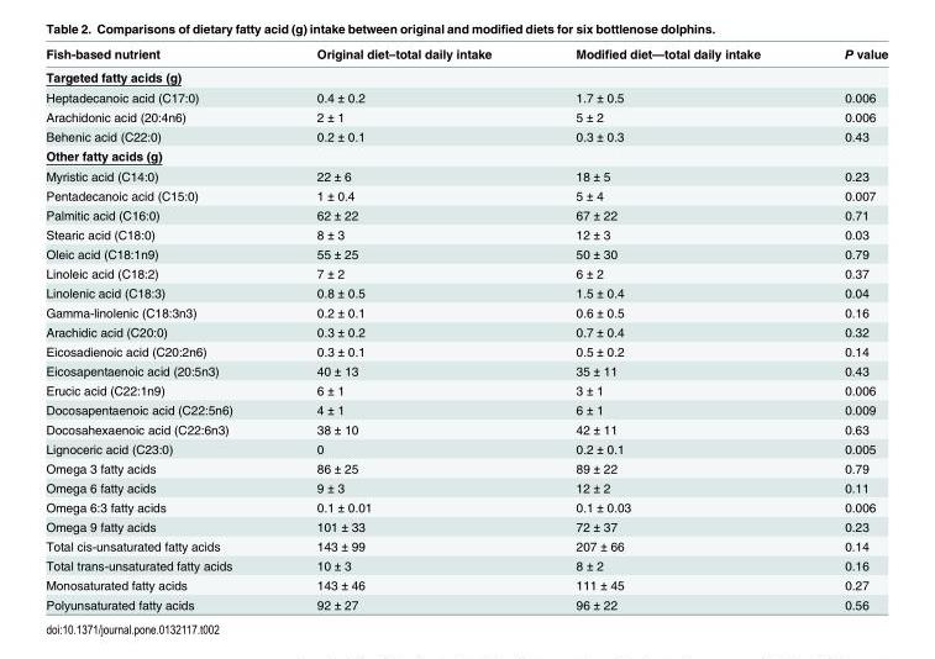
<table><thead><tr><td>Fish-based nutrient</td><td>Original diet–total daily intake</td><td>Modified diet—total daily intake</td><td>P value</td></tr></thead><tbody><tr><td colspan="4">Targeted fatty acids (g)</td></tr><tr><td>Heptadecanoic acid (C17:0)</td><td>0.4 ± 0.2</td><td>1.7 ± 0.5</td><td>0.006</td></tr><tr><td>Arachidonic acid (20:4n6)</td><td>2 ± 1</td><td>5 ± 2</td><td>0.006</td></tr><tr><td>Behenic acid (C22:0)</td><td>0.2 ± 0.1</td><td>0.3 ± 0.3</td><td>0.43</td></tr><tr><td colspan="4">Other fatty acids (g)</td></tr><tr><td>Myristic acid (C14:0)</td><td>22 ± 6</td><td>18 ± 5</td><td>0.23</td></tr><tr><td>Pentadecanoic acid (C15:0)</td><td>1 ± 0.4</td><td>5 ± 4</td><td>0.007</td></tr><tr><td>Palmitic acid (C16:0)</td><td>62 ± 22</td><td>67 ± 22</td><td>0.71</td></tr><tr><td>Stearic acid (C18:0)</td><td>8 ± 3</td><td>12 ± 3</td><td>0.03</td></tr><tr><td>Oleic acid (C18:1n9)</td><td>55 ± 25</td><td>50 ± 30</td><td>0.79</td></tr><tr><td>Linoleic acid (C18:2)</td><td>7 ± 2</td><td>6 ± 2</td><td>0.37</td></tr><tr><td>Linolenic acid (C18:3)</td><td>0.8 ± 0.5</td><td>1.5 ± 0.4</td><td>0.04</td></tr><tr><td>Gamma-linolenic (C18:3n3)</td><td>0.2 ± 0.1</td><td>0.6 ± 0.5</td><td>0.16</td></tr><tr><td>Arachidic acid (C20:0)</td><td>0.3 ± 0.2</td><td>0.7 ± 0.4</td><td>0.32</td></tr><tr><td>Eicosadienoic acid (C20:2n6)</td><td>0.3 ± 0.1</td><td>0.5 ± 0.2</td><td>0.14</td></tr><tr><td>Eicosapentaenoic acid (20:5n3)</td><td>40 ± 13</td><td>35 ± 11</td><td>0.43</td></tr><tr><td>Erucic acid (C22:1n9)</td><td>6 ± 1</td><td>3 ± 1</td><td>0.006</td></tr><tr><td>Docosapentaenoic acid (C22:5n6)</td><td>4 ± 1</td><td>6 ± 1</td><td>0.009</td></tr><tr><td>Docosahexaenoic acid (C22:6n3)</td><td>38 ± 10</td><td>42 ± 11</td><td>0.63</td></tr><tr><td>Lignoceric acid (C23:0)</td><td>0</td><td>0.2 ± 0.1</td><td>0.005</td></tr><tr><td>Omega 3 fatty acids</td><td>86 ± 25</td><td>89 ± 22</td><td>0.79</td></tr><tr><td>Omega 6 fatty acids</td><td>9 ± 3</td><td>12 ± 2</td><td>0.11</td></tr><tr><td>Omega 6:3 fatty acids</td><td>0.1 ± 0.01</td><td>0.1 ± 0.03</td><td>0.006</td></tr><tr><td>Omega 9 fatty acids</td><td>101 ± 33</td><td>72 ± 37</td><td>0.23</td></tr><tr><td>Total cis-unsaturated fatty acids</td><td>143 ± 99</td><td>207 ± 66</td><td>0.14</td></tr><tr><td>Total trans-unsaturated fatty acids</td><td>10 ± 3</td><td>8 ± 2</td><td>0.16</td></tr><tr><td>Monosaturated fatty acids</td><td>143 ± 46</td><td>111 ± 45</td><td>0.27</td></tr><tr><td>Polyunsaturated fatty acids</td><td>92 ± 27</td><td>96 ± 22</td><td>0.56</td></tr></tbody></table>